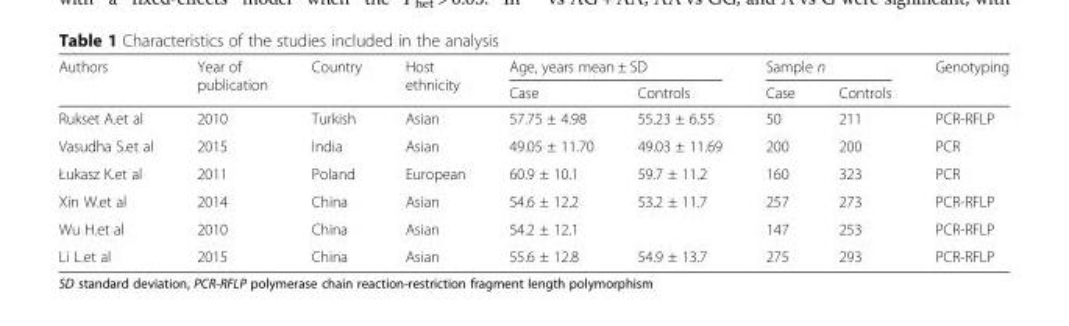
<table><thead><tr><td rowspan="2">Authors</td><td rowspan="2">Year of publication</td><td rowspan="2">Country</td><td rowspan="2">Host ethnicity</td><td colspan="2">Age, years mean ± SD</td><td colspan="2">Sample n</td><td rowspan="2">Genotyping</td></tr><tr><td>Case</td><td>Controls</td><td>Case</td><td>Controls</td></tr></thead><tbody><tr><td>Rukset A.et al</td><td>2010</td><td>Turkish</td><td>Asian</td><td>57.75 ± 4.98</td><td>55.23 ± 6.55</td><td>50</td><td>211</td><td>PCR-RFLP</td></tr><tr><td>Vasudha S.et al</td><td>2015</td><td>India</td><td>Asian</td><td>49.05 ± 11.70</td><td>49.03 ± 11.69</td><td>200</td><td>200</td><td>PCR</td></tr><tr><td>Łukasz K.et al</td><td>2011</td><td>Poland</td><td>European</td><td>60.9 ± 10.1</td><td>59.7 ± 11.2</td><td>160</td><td>323</td><td>PCR</td></tr><tr><td>Xin W.et al</td><td>2014</td><td>China</td><td>Asian</td><td>54.6 ± 12.2</td><td>53.2 ± 11.7</td><td>257</td><td>273</td><td>PCR-RFLP</td></tr><tr><td>Wu H.et al</td><td>2010</td><td>China</td><td>Asian</td><td>54.2 ± 12.1</td><td></td><td>147</td><td>253</td><td>PCR-RFLP</td></tr><tr><td>Li L.et al</td><td>2015</td><td>China</td><td>Asian</td><td>55.6 ± 12.8</td><td>54.9 ± 13.7</td><td>275</td><td>293</td><td>PCR-RFLP</td></tr></tbody></table>